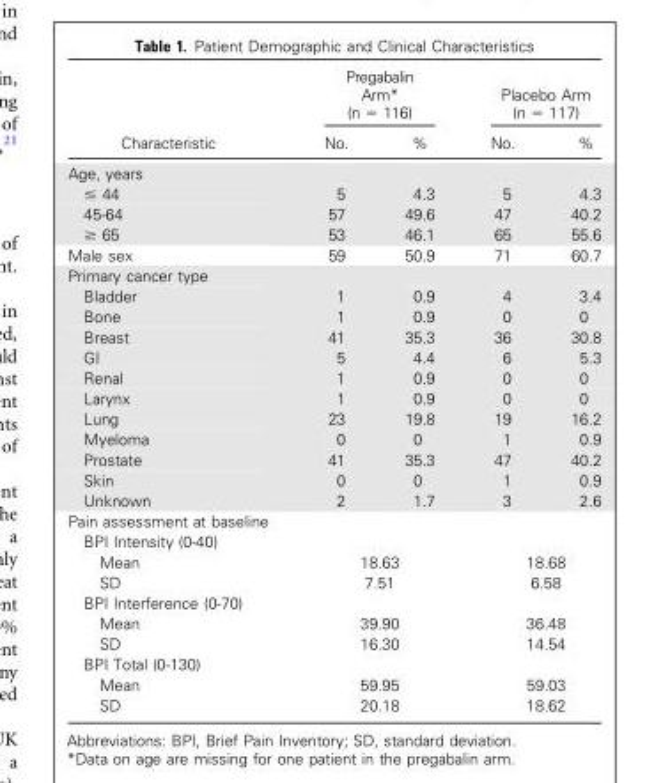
<table><thead><tr><td rowspan="2">Characteristic</td><td colspan="2">Pregabalin Arm* (n = 116)</td><td colspan="2">Placebo Arm (n = 117)</td></tr><tr><td>No.</td><td>%</td><td>No.</td><td>%</td></tr></thead><tbody><tr><td colspan="5">Age, years</td></tr><tr><td>≤ 44</td><td>5</td><td>4.3</td><td>5</td><td>4.3</td></tr><tr><td>45-64</td><td>57</td><td>49.6</td><td>47</td><td>40.2</td></tr><tr><td>≥ 65</td><td>53</td><td>46.1</td><td>65</td><td>55.6</td></tr><tr><td>Male sex</td><td>59</td><td>50.9</td><td>71</td><td>60.7</td></tr><tr><td colspan="5">Primary cancer type</td></tr><tr><td>Bladder</td><td>1</td><td>0.9</td><td>4</td><td>3.4</td></tr><tr><td>Bone</td><td>1</td><td>0.9</td><td>0</td><td>0</td></tr><tr><td>Breast</td><td>41</td><td>35.3</td><td>36</td><td>30.8</td></tr><tr><td>GI</td><td>5</td><td>4.4</td><td>6</td><td>5.3</td></tr><tr><td>Renal</td><td>1</td><td>0.9</td><td>0</td><td>0</td></tr><tr><td>Larynx</td><td>1</td><td>0.9</td><td>0</td><td>0</td></tr><tr><td>Lung</td><td>23</td><td>19.8</td><td>19</td><td>16.2</td></tr><tr><td>Myeloma</td><td>0</td><td>0</td><td>1</td><td>0.9</td></tr><tr><td>Prostate</td><td>41</td><td>35.3</td><td>47</td><td>40.2</td></tr><tr><td>Skin</td><td>0</td><td>0</td><td>1</td><td>0.9</td></tr><tr><td>Unknown</td><td>2</td><td>1.7</td><td>3</td><td>2.6</td></tr><tr><td colspan="5">Pain assessment at baseline</td></tr><tr><td colspan="5">BPI Intensity (0-40)</td></tr><tr><td>Mean</td><td colspan="2">18.63</td><td colspan="2">18.68</td></tr><tr><td>SD</td><td colspan="2">7.51</td><td colspan="2">6.58</td></tr><tr><td colspan="5">BPI Interference (0-70)</td></tr><tr><td>Mean</td><td colspan="2">39.90</td><td colspan="2">36.48</td></tr><tr><td>SD</td><td colspan="2">16.30</td><td colspan="2">14.54</td></tr><tr><td colspan="5">BPI Total (0-130)</td></tr><tr><td>Mean</td><td colspan="2">59.95</td><td colspan="2">59.03</td></tr><tr><td>SD</td><td colspan="2">20.18</td><td colspan="2">18.62</td></tr></tbody></table>